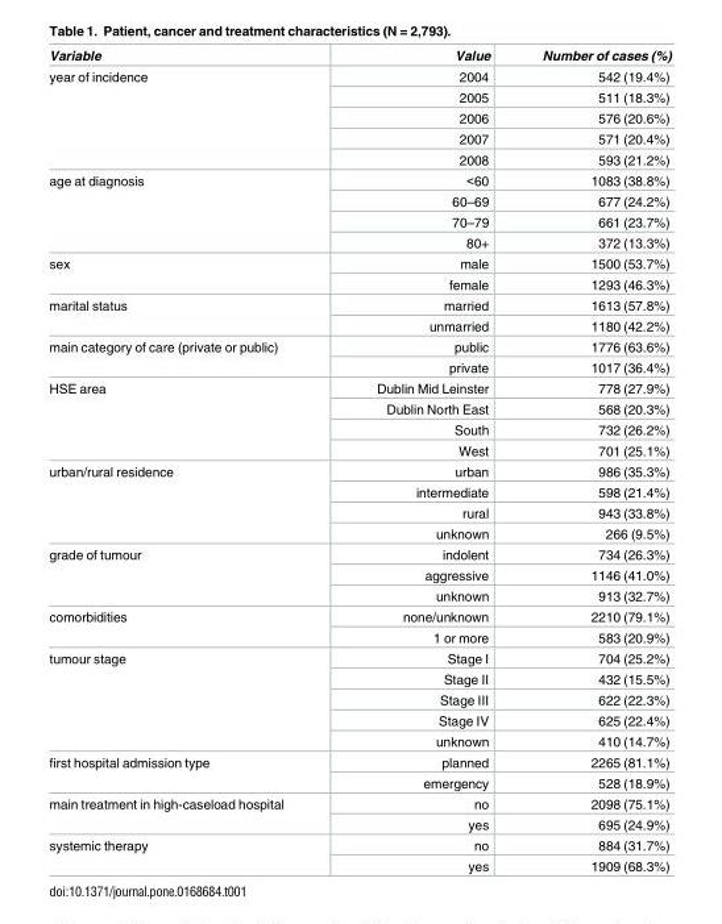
<table><thead><tr><td>Variable</td><td>Value</td><td>Number of cases (%)</td></tr></thead><tbody><tr><td rowspan="5">year of incidence</td><td>2004</td><td>542 (19.4%)</td></tr><tr><td>2005</td><td>511 (18.3%)</td></tr><tr><td>2006</td><td>576 (20.6%)</td></tr><tr><td>2007</td><td>571 (20.4%)</td></tr><tr><td>2008</td><td>593 (21.2%)</td></tr><tr><td rowspan="4">age at diagnosis</td><td>&lt;60</td><td>1083 (38.8%)</td></tr><tr><td>60–69</td><td>677 (24.2%)</td></tr><tr><td>70–79</td><td>661 (23.7%)</td></tr><tr><td>80+</td><td>372 (13.3%)</td></tr><tr><td rowspan="2">sex</td><td>male</td><td>1500 (53.7%)</td></tr><tr><td>female</td><td>1293 (46.3%)</td></tr><tr><td rowspan="2">marital status</td><td>married</td><td>1613 (57.8%)</td></tr><tr><td>unmarried</td><td>1180 (42.2%)</td></tr><tr><td rowspan="2">main category of care (private or public)</td><td>public</td><td>1776 (63.6%)</td></tr><tr><td>private</td><td>1017 (36.4%)</td></tr><tr><td rowspan="4">HSE area</td><td>Dublin Mid Leinster</td><td>778 (27.9%)</td></tr><tr><td>Dublin North East</td><td>568 (20.3%)</td></tr><tr><td>South</td><td>732 (26.2%)</td></tr><tr><td>West</td><td>701 (25.1%)</td></tr><tr><td rowspan="4">urban/rural residence</td><td>urban</td><td>986 (35.3%)</td></tr><tr><td>intermediate</td><td>598 (21.4%)</td></tr><tr><td>rural</td><td>943 (33.8%)</td></tr><tr><td>unknown</td><td>266 (9.5%)</td></tr><tr><td rowspan="3">grade of tumour</td><td>indolent</td><td>734 (26.3%)</td></tr><tr><td>aggressive</td><td>1146 (41.0%)</td></tr><tr><td>unknown</td><td>913 (32.7%)</td></tr><tr><td rowspan="2">comorbidities</td><td>none/unknown</td><td>2210 (79.1%)</td></tr><tr><td>1 or more</td><td>583 (20.9%)</td></tr><tr><td rowspan="5">tumour stage</td><td>Stage I</td><td>704 (25.2%)</td></tr><tr><td>Stage II</td><td>432 (15.5%)</td></tr><tr><td>Stage III</td><td>622 (22.3%)</td></tr><tr><td>Stage IV</td><td>625 (22.4%)</td></tr><tr><td>unknown</td><td>410 (14.7%)</td></tr><tr><td rowspan="2">first hospital admission type</td><td>planned</td><td>2265 (81.1%)</td></tr><tr><td>emergency</td><td>528 (18.9%)</td></tr><tr><td rowspan="2">main treatment in high-caseload hospital</td><td>no</td><td>2098 (75.1%)</td></tr><tr><td>yes</td><td>695 (24.9%)</td></tr><tr><td rowspan="2">systemic therapy</td><td>no</td><td>884 (31.7%)</td></tr><tr><td>yes</td><td>1909 (68.3%)</td></tr></tbody></table>